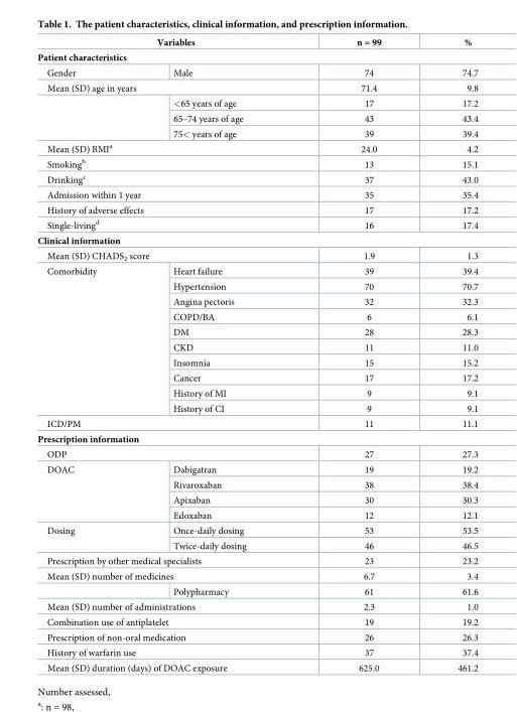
<table><thead><tr><td colspan="2">Variables</td><td>n = 99</td><td>%</td></tr><tr><td colspan="4">Patient characteristics</td></tr><tr><td>Gender</td><td>Male</td><td>74</td><td>74.7</td></tr></thead><tbody><tr><td colspan="2">Mean (SD) age in years</td><td>71.4</td><td>9.8</td></tr><tr><td rowspan="3"></td><td>&lt;65 years of age</td><td>17</td><td>17.2</td></tr><tr><td>65–74 years of age</td><td>43</td><td>43.4</td></tr><tr><td>75&lt; years of age</td><td>39</td><td>39.4</td></tr><tr><td colspan="2">Mean (SD) BMI<sup>a</sup></td><td>24.0</td><td>4.2</td></tr><tr><td colspan="2">Smoking<sup>b</sup></td><td>13</td><td>15.1</td></tr><tr><td colspan="2">Drinking<sup>c</sup></td><td>37</td><td>43.0</td></tr><tr><td colspan="2">Admission within 1 year</td><td>35</td><td>35.4</td></tr><tr><td colspan="2">History of adverse effects</td><td>17</td><td>17.2</td></tr><tr><td colspan="2">Single-living<sup>d</sup></td><td>16</td><td>17.4</td></tr><tr><td colspan="4">Clinical information</td></tr><tr><td colspan="2">Mean (SD) CHADS<sub>2</sub> score</td><td>1.9</td><td>1.3</td></tr><tr><td rowspan="10">Comorbidity</td><td>Heart failure</td><td>39</td><td>39.4</td></tr><tr><td>Hypertension</td><td>70</td><td>70.7</td></tr><tr><td>Angina pectoris</td><td>32</td><td>32.3</td></tr><tr><td>COPD/BA</td><td>6</td><td>6.1</td></tr><tr><td>DM</td><td>28</td><td>28.3</td></tr><tr><td>CKD</td><td>11</td><td>11.0</td></tr><tr><td>Insomnia</td><td>15</td><td>15.2</td></tr><tr><td>Cancer</td><td>17</td><td>17.2</td></tr><tr><td>History of MI</td><td>9</td><td>9.1</td></tr><tr><td>History of CI</td><td>9</td><td>9.1</td></tr><tr><td colspan="2">ICD/PM</td><td>11</td><td>11.1</td></tr><tr><td colspan="4">Prescription information</td></tr><tr><td colspan="2">ODP</td><td>27</td><td>27.3</td></tr><tr><td rowspan="4">DOAC</td><td>Dabigatran</td><td>19</td><td>19.2</td></tr><tr><td>Rivaroxaban</td><td>38</td><td>38.4</td></tr><tr><td>Apixaban</td><td>30</td><td>30.3</td></tr><tr><td>Edoxaban</td><td>12</td><td>12.1</td></tr><tr><td rowspan="2">Dosing</td><td>Once-daily dosing</td><td>53</td><td>53.5</td></tr><tr><td>Twice-daily dosing</td><td>46</td><td>46.5</td></tr><tr><td colspan="2">Prescription by other medical specialists</td><td>23</td><td>23.2</td></tr><tr><td colspan="2">Mean (SD) number of medicines</td><td>6.7</td><td>3.4</td></tr><tr><td></td><td>Polypharmacy</td><td>61</td><td>61.6</td></tr><tr><td colspan="2">Mean (SD) number of administrations</td><td>2.3</td><td>1.0</td></tr><tr><td colspan="2">Combination use of antiplatelet</td><td>19</td><td>19.2</td></tr><tr><td colspan="2">Prescription of non-oral medication</td><td>26</td><td>26.3</td></tr><tr><td colspan="2">History of warfarin use</td><td>37</td><td>37.4</td></tr><tr><td colspan="2">Mean (SD) duration (days) of DOAC exposure</td><td>625.0</td><td>461.2</td></tr></tbody></table>